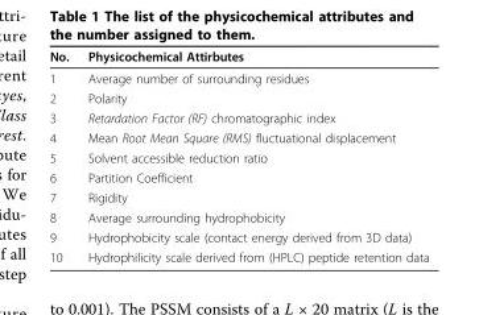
<table><thead><tr><td>No.</td><td>Physicochemical Attirbutes</td></tr></thead><tbody><tr><td>1</td><td>Average number of surrounding residues</td></tr><tr><td>2</td><td>Polarity</td></tr><tr><td>3</td><td>Retardation Factor (RF) chromatographic index</td></tr><tr><td>4</td><td>Mean Root Mean Square (RMS) fluctuational displacement</td></tr><tr><td>5</td><td>Solvent accessible reduction ratio</td></tr><tr><td>6</td><td>Partition Coefficient</td></tr><tr><td>7</td><td>Rigidity</td></tr><tr><td>8</td><td>Average surrounding hydrophobicity</td></tr><tr><td>9</td><td>Hydrophobicity scale (contact energy derived from 3D data)</td></tr><tr><td>10</td><td>Hydrophilicity scale derived from (HPLC) peptide retention data</td></tr></tbody></table>